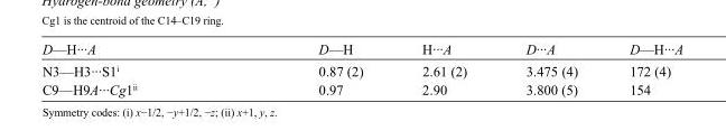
<table><tbody><tr><td>D—H···A</td><td>D—H</td><td>H···A</td><td>D···A</td><td>D—H···A</td></tr><tr><td>N3—H3···S1<sup>i</sup></td><td>0.87 (2)</td><td>2.61 (2)</td><td>3.475 (4)</td><td>172 (4)</td></tr><tr><td>C9—H9A···Cg1<sup>ii</sup></td><td>0.97</td><td>2.90</td><td>3.800 (5)</td><td>154</td></tr></tbody></table>